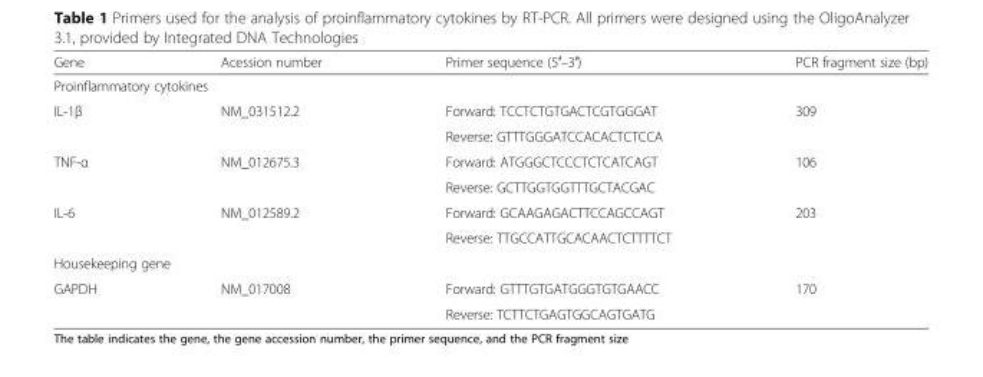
<table><thead><tr><td>Gene</td><td>Acession number</td><td>Primer sequence (5′–3′)</td><td>PCR fragment size (bp)</td></tr></thead><tbody><tr><td colspan="4">Proinflammatory cytokines</td></tr><tr><td rowspan="2">IL-1β</td><td rowspan="2">NM_031512.2</td><td>Forward: TCCTCTGTGACTCGTGGGAT</td><td rowspan="2">309</td></tr><tr><td>Reverse: GTTTGGGATCCACACTCTCCA</td></tr><tr><td rowspan="2">TNF-α</td><td rowspan="2">NM_012675.3</td><td>Forward: ATGGGCTCCCTCTCATCAGT</td><td rowspan="2">106</td></tr><tr><td>Reverse: GCTTGGTGGTTTGCTACGAC</td></tr><tr><td rowspan="2">IL-6</td><td rowspan="2">NM_012589.2</td><td>Forward: GCAAGAGACTTCCAGCCAGT</td><td rowspan="2">203</td></tr><tr><td>Reverse: TTGCCATTGCACAACTCTTTTCT</td></tr><tr><td colspan="4">Housekeeping gene</td></tr><tr><td rowspan="2">GAPDH</td><td rowspan="2">NM_017008</td><td>Forward: GTTTGTGATGGGTGTGAACC</td><td rowspan="2">170</td></tr><tr><td>Reverse: TCTTCTGAGTGGCAGTGATG</td></tr></tbody></table>